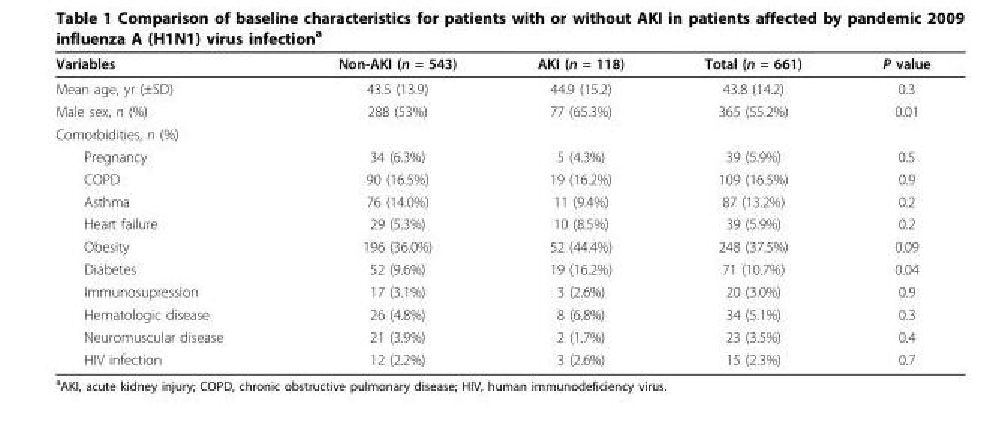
<table><thead><tr><td>Variables</td><td>Non-AKI (n = 543)</td><td>AKI (n = 118)</td><td>Total (n = 661)</td><td>P value</td></tr></thead><tbody><tr><td>Mean age, yr (±SD)</td><td>43.5 (13.9)</td><td>44.9 (15.2)</td><td>43.8 (14.2)</td><td>0.3</td></tr><tr><td>Male sex, n (%)</td><td>288 (53%)</td><td>77 (65.3%)</td><td>365 (55.2%)</td><td>0.01</td></tr><tr><td colspan="5">Comorbidities, n (%)</td></tr><tr><td>Pregnancy</td><td>34 (6.3%)</td><td>5 (4.3%)</td><td>39 (5.9%)</td><td>0.5</td></tr><tr><td>COPD</td><td>90 (16.5%)</td><td>19 (16.2%)</td><td>109 (16.5%)</td><td>0.9</td></tr><tr><td>Asthma</td><td>76 (14.0%)</td><td>11 (9.4%)</td><td>87 (13.2%)</td><td>0.2</td></tr><tr><td>Heart failure</td><td>29 (5.3%)</td><td>10 (8.5%)</td><td>39 (5.9%)</td><td>0.2</td></tr><tr><td>Obesity</td><td>196 (36.0%)</td><td>52 (44.4%)</td><td>248 (37.5%)</td><td>0.09</td></tr><tr><td>Diabetes</td><td>52 (9.6%)</td><td>19 (16.2%)</td><td>71 (10.7%)</td><td>0.04</td></tr><tr><td>Immunosupression</td><td>17 (3.1%)</td><td>3 (2.6%)</td><td>20 (3.0%)</td><td>0.9</td></tr><tr><td>Hematologic disease</td><td>26 (4.8%)</td><td>8 (6.8%)</td><td>34 (5.1%)</td><td>0.3</td></tr><tr><td>Neuromuscular disease</td><td>21 (3.9%)</td><td>2 (1.7%)</td><td>23 (3.5%)</td><td>0.4</td></tr><tr><td>HIV infection</td><td>12 (2.2%)</td><td>3 (2.6%)</td><td>15 (2.3%)</td><td>0.7</td></tr></tbody></table>